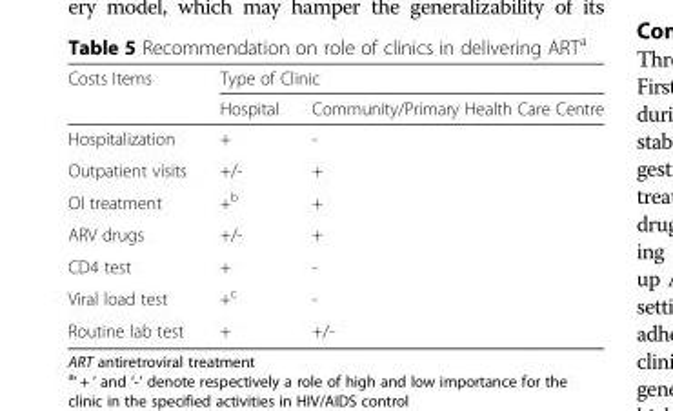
<table><thead><tr><td rowspan="2">Costs Items</td><td colspan="2">Type of Clinic</td></tr><tr><td>Hospital</td><td>Community/Primary Health Care Centre</td></tr></thead><tbody><tr><td>Hospitalization</td><td>+</td><td>-</td></tr><tr><td>Outpatient visits</td><td>+/-</td><td>+</td></tr><tr><td>OI treatment</td><td>+<sup>b</sup></td><td>+</td></tr><tr><td>ARV drugs</td><td>+/-</td><td>+</td></tr><tr><td>CD4 test</td><td>+</td><td>-</td></tr><tr><td>Viral load test</td><td>+<sup>c</sup></td><td>-</td></tr><tr><td>Routine lab test</td><td>+</td><td>+/-</td></tr></tbody></table>